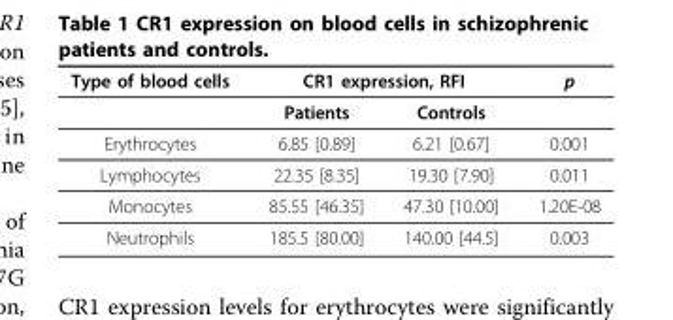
<table><thead><tr><td rowspan="2">Type of blood cells</td><td colspan="2">CR1 expression, RFI</td><td rowspan="2">p</td></tr><tr><td>Patients</td><td>Controls</td></tr></thead><tbody><tr><td>Erythrocytes</td><td>6.85 [0.89]</td><td>6.21 [0.67]</td><td>0.001</td></tr><tr><td>Lymphocytes</td><td>22.35 [8.35]</td><td>19.30 [7.90]</td><td>0.011</td></tr><tr><td>Monocytes</td><td>85.55 [46.35]</td><td>47.30 [10.00]</td><td>1.20E-08</td></tr><tr><td>Neutrophils</td><td>185.5 [80.00]</td><td>140.00 [44.5]</td><td>0.003</td></tr></tbody></table>